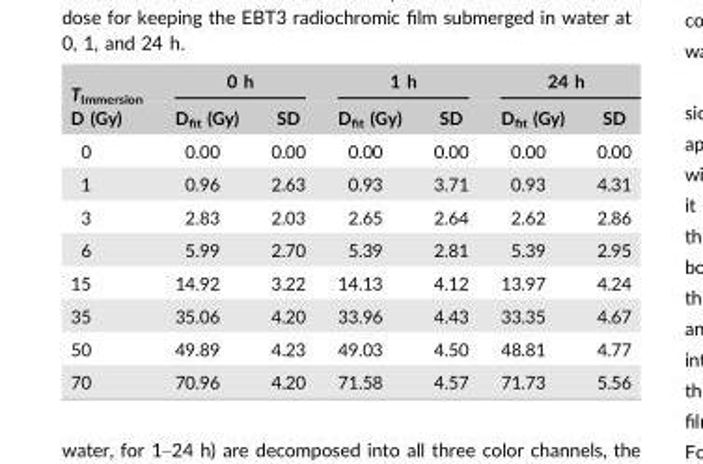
<table><thead><tr><td rowspan="2">T<sub>Immersion</sub> D (Gy)</td><td colspan="2">0 h</td><td colspan="2">1 h</td><td colspan="2">24 h</td></tr><tr><td>D<sub>fit</sub> (Gy)</td><td>SD</td><td>D<sub>fit</sub> (Gy)</td><td>SD</td><td>D<sub>fit</sub> (Gy)</td><td>SD</td></tr></thead><tbody><tr><td>0</td><td>0.00</td><td>0.00</td><td>0.00</td><td>0.00</td><td>0.00</td><td>0.00</td></tr><tr><td>1</td><td>0.96</td><td>2.63</td><td>0.93</td><td>3.71</td><td>0.93</td><td>4.31</td></tr><tr><td>3</td><td>2.83</td><td>2.03</td><td>2.65</td><td>2.64</td><td>2.62</td><td>2.86</td></tr><tr><td>6</td><td>5.99</td><td>2.70</td><td>5.39</td><td>2.81</td><td>5.39</td><td>2.95</td></tr><tr><td>15</td><td>14.92</td><td>3.22</td><td>14.13</td><td>4.12</td><td>13.97</td><td>4.24</td></tr><tr><td>35</td><td>35.06</td><td>4.20</td><td>33.96</td><td>4.43</td><td>33.35</td><td>4.67</td></tr><tr><td>50</td><td>49.89</td><td>4.23</td><td>49.03</td><td>4.50</td><td>48.81</td><td>4.77</td></tr><tr><td>70</td><td>70.96</td><td>4.20</td><td>71.58</td><td>4.57</td><td>71.73</td><td>5.56</td></tr></tbody></table>